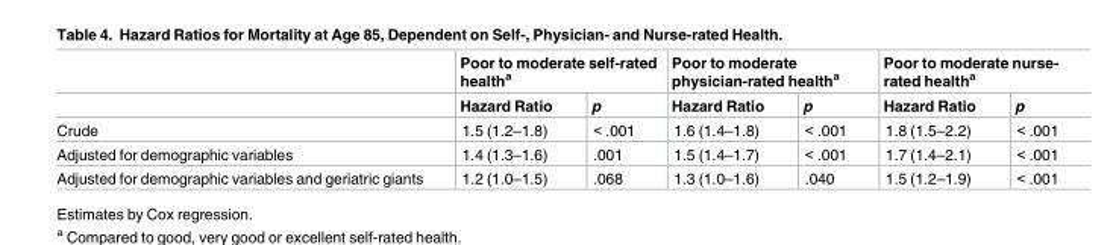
<table><thead><tr><td rowspan="2"></td><td colspan="2">Poor to moderate self-rated health<sup>a</sup></td><td colspan="2">Poor to moderate physician-rated health<sup>a</sup></td><td colspan="2">Poor to moderate nurse- rated health<sup>a</sup></td></tr><tr><td>Hazard Ratio</td><td>p</td><td>Hazard Ratio</td><td>p</td><td>Hazard Ratio</td><td>p</td></tr></thead><tbody><tr><td>Crude</td><td>1.5 (1.2–1.8)</td><td>&lt; .001</td><td>1.6 (1.4–1.8)</td><td>&lt; .001</td><td>1.8 (1.5–2.2)</td><td>&lt; .001</td></tr><tr><td>Adjusted for demographic variables</td><td>1.4 (1.3–1.6)</td><td>.001</td><td>1.5 (1.4–1.7)</td><td>&lt; .001</td><td>1.7 (1.4–2.1)</td><td>&lt; .001</td></tr><tr><td>Adjusted for demographic variables and geriatric giants</td><td>1.2 (1.0–1.5)</td><td>.068</td><td>1.3 (1.0–1.6)</td><td>.040</td><td>1.5 (1.2–1.9)</td><td>&lt; .001</td></tr></tbody></table>